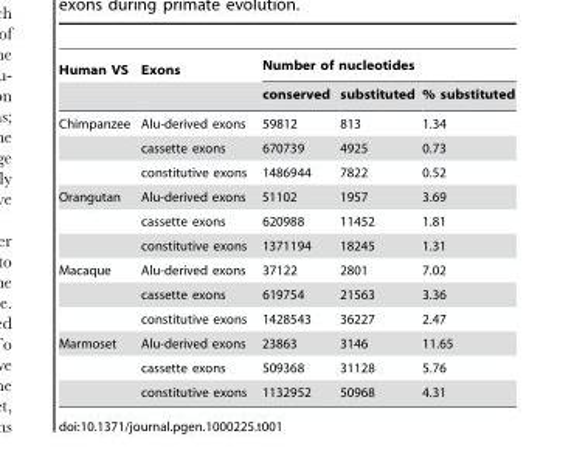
<table><thead><tr><td rowspan="2">Human VS</td><td rowspan="2">Exons</td><td colspan="3">Number of nucleotides</td></tr><tr><td>conserved</td><td>substituted</td><td>% substituted</td></tr></thead><tbody><tr><td rowspan="3">Chimpanzee</td><td>Alu-derived exons</td><td>59812</td><td>813</td><td>1.34</td></tr><tr><td>cassette exons</td><td>670739</td><td>4925</td><td>0.73</td></tr><tr><td>constitutive exons</td><td>1486944</td><td>7822</td><td>0.52</td></tr><tr><td rowspan="3">Orangutan</td><td>Alu-derived exons</td><td>51102</td><td>1957</td><td>3.69</td></tr><tr><td>cassette exons</td><td>620988</td><td>11452</td><td>1.81</td></tr><tr><td>constitutive exons</td><td>1371194</td><td>18245</td><td>1.31</td></tr><tr><td rowspan="3">Macaque</td><td>Alu-derived exons</td><td>37122</td><td>2801</td><td>7.02</td></tr><tr><td>cassette exons</td><td>619754</td><td>21563</td><td>3.36</td></tr><tr><td>constitutive exons</td><td>1428543</td><td>36227</td><td>2.47</td></tr><tr><td rowspan="3">Marmoset</td><td>Alu-derived exons</td><td>23863</td><td>3146</td><td>11.65</td></tr><tr><td>cassette exons</td><td>509368</td><td>31128</td><td>5.76</td></tr><tr><td>constitutive exons</td><td>1132952</td><td>50968</td><td>4.31</td></tr></tbody></table>